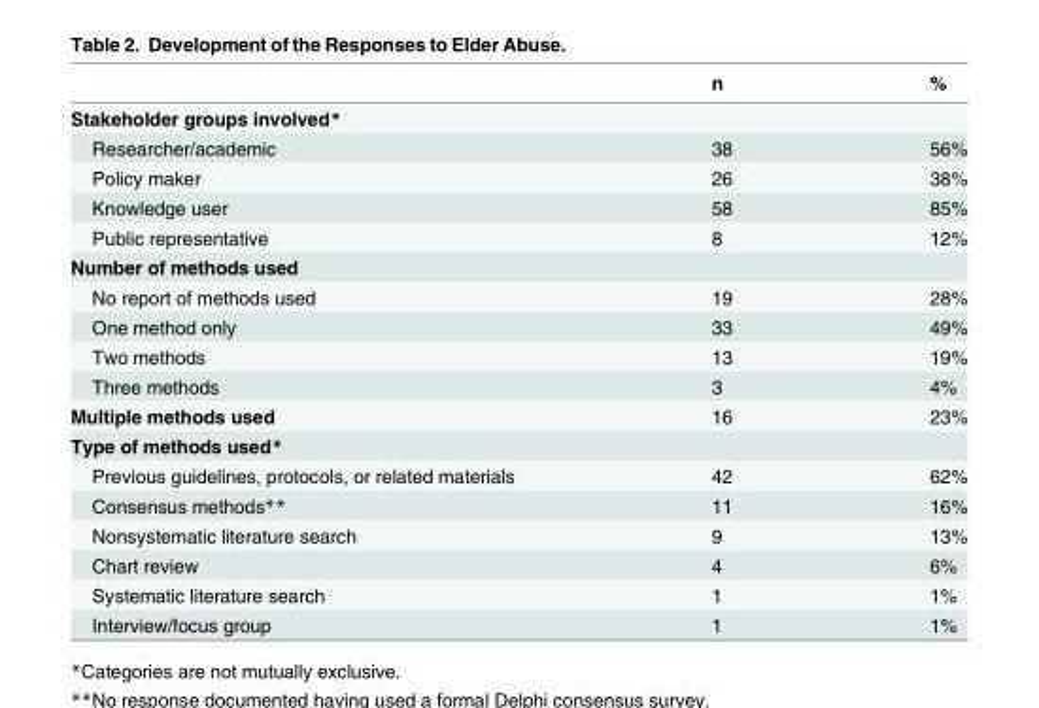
<table><thead><tr><td></td><td>n</td><td>%</td></tr></thead><tbody><tr><td colspan="3">Stakeholder groups involved*</td></tr><tr><td>Researcher/academic</td><td>38</td><td>56%</td></tr><tr><td>Policy maker</td><td>26</td><td>38%</td></tr><tr><td>Knowledge user</td><td>58</td><td>85%</td></tr><tr><td>Public representative</td><td>8</td><td>12%</td></tr><tr><td colspan="3">Number of methods used</td></tr><tr><td>No report of methods used</td><td>19</td><td>28%</td></tr><tr><td>One method only</td><td>33</td><td>49%</td></tr><tr><td>Two methods</td><td>13</td><td>19%</td></tr><tr><td>Three methods</td><td>3</td><td>4%</td></tr><tr><td>Multiple methods used</td><td>16</td><td>23%</td></tr><tr><td colspan="3">Type of methods used*</td></tr><tr><td>Previous guidelines, protocols, or related materials</td><td>42</td><td>62%</td></tr><tr><td>Consensus methods**</td><td>11</td><td>16%</td></tr><tr><td>Nonsystematic literature search</td><td>9</td><td>13%</td></tr><tr><td>Chart review</td><td>4</td><td>6%</td></tr><tr><td>Systematic literature search</td><td>1</td><td>1%</td></tr><tr><td>Interview/focus group</td><td>1</td><td>1%</td></tr></tbody></table>